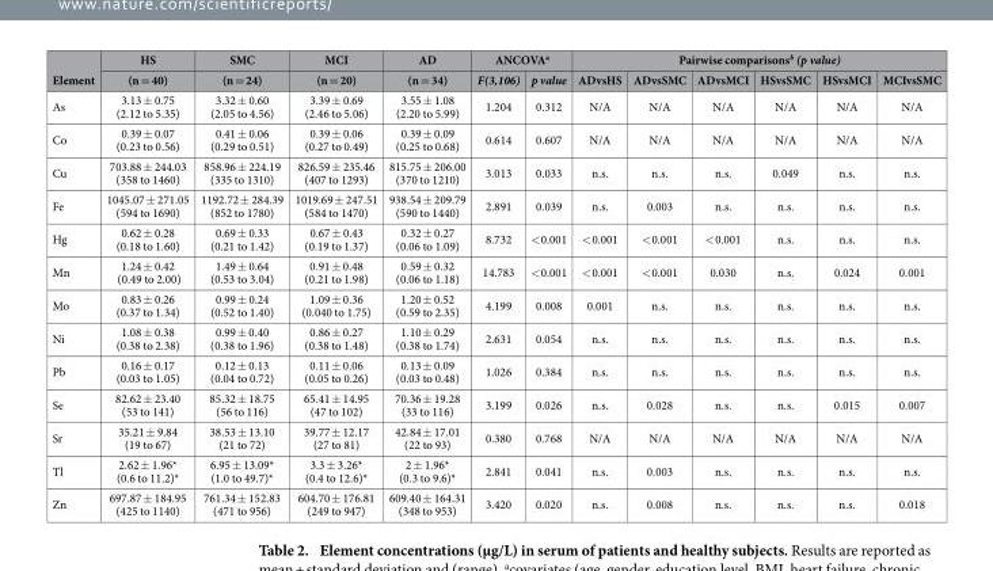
<table><thead><tr><td rowspan="2">Element</td><td rowspan="2">HS (n = 40)</td><td rowspan="2">SMC (n = 24)</td><td rowspan="2">MCI (n = 20)</td><td rowspan="2">AD (n = 34)</td><td colspan="2">ANCOVA<sup>a</sup></td><td colspan="6">Pairwise comparisons<sup>b</sup> (p value)</td></tr><tr><td>F(3,106)</td><td>p value</td><td>ADvsHS</td><td>ADvsSMC</td><td>ADvsMCI</td><td>HSvsSMC</td><td>HSvsMCI</td><td>MCIvsSMC</td></tr></thead><tbody><tr><td>As</td><td>3.13 ± 0.75 (2.12 to 5.35)</td><td>3.32 ± 0.60 (2.05 to 4.56)</td><td>3.39 ± 0.69 (2.46 to 5.06)</td><td>3.55 ± 1.08 (2.20 to 5.99)</td><td>1.204</td><td>0.312</td><td>N/A</td><td>N/A</td><td>N/A</td><td>N/A</td><td>N/A</td><td>N/A</td></tr><tr><td>Co</td><td>0.39 ± 0.07 (0.23 to 0.56)</td><td>0.41 ± 0.06 (0.29 to 0.51)</td><td>0.39 ± 0.06 (0.27 to 0.49)</td><td>0.39 ± 0.09 (0.25 to 0.68)</td><td>0.614</td><td>0.607</td><td>N/A</td><td>N/A</td><td>N/A</td><td>N/A</td><td>N/A</td><td>N/A</td></tr><tr><td>Cu</td><td>703.88 ± 244.03 (358 to 1460)</td><td>858.96 ± 224.19 (335 to 1310)</td><td>826.59 ± 235.46 (407 to 1293)</td><td>815.75 ± 206.00 (370 to 1210)</td><td>3.013</td><td>0.033</td><td>n.s.</td><td>n.s.</td><td>n.s.</td><td>0.049</td><td>n.s.</td><td>n.s.</td></tr><tr><td>Fe</td><td>1045.07 ± 271.05 (594 to 1690)</td><td>1192.72 ± 284.39 (852 to 1780)</td><td>1019.69 ± 247.51 (584 to 1470)</td><td>938.54 ± 209.79 (590 to 1440)</td><td>2.891</td><td>0.039</td><td>n.s.</td><td>0.003</td><td>n.s.</td><td>n.s.</td><td>n.s.</td><td>n.s.</td></tr><tr><td>Hg</td><td>0.62 ± 0.28 (0.18 to 1.60)</td><td>0.69 ± 0.33 (0.21 to 1.42)</td><td>0.67 ± 0.43 (0.19 to 1.37)</td><td>0.32 ± 0.27 (0.06 to 1.09)</td><td>8.732</td><td>&lt; 0.001</td><td>&lt; 0.001</td><td>&lt; 0.001</td><td>&lt; 0.001</td><td>n.s.</td><td>n.s.</td><td>n.s.</td></tr><tr><td>Mn</td><td>1.24 ± 0.42 (0.49 to 2.00)</td><td>1.49 ± 0.64 (0.53 to 3.04)</td><td>0.91 ± 0.48 (0.21 to 1.98)</td><td>0.59 ± 0.32 (0.06 to 1.18)</td><td>14.783</td><td>&lt; 0.001</td><td>&lt; 0.001</td><td>&lt; 0.001</td><td>0.030</td><td>n.s.</td><td>0.024</td><td>0.001</td></tr><tr><td>Mo</td><td>0.83 ± 0.26 (0.37 to 1.34)</td><td>0.99 ± 0.24 (0.52 to 1.40)</td><td>1.09 ± 0.36 (0.040 to 1.75)</td><td>1.20 ± 0.52 (0.59 to 2.35)</td><td>4.199</td><td>0.008</td><td>0.001</td><td>n.s.</td><td>n.s.</td><td>n.s.</td><td>n.s.</td><td>n.s.</td></tr><tr><td>Ni</td><td>1.08 ± 0.38 (0.38 to 2.38)</td><td>0.99 ± 0.40 (0.38 to 1.96)</td><td>0.86 ± 0.27 (0.38 to 1.48)</td><td>1.10 ± 0.29 (0.38 to 1.74)</td><td>2.631</td><td>0.054</td><td>n.s.</td><td>n.s.</td><td>n.s.</td><td>n.s.</td><td>n.s.</td><td>n.s.</td></tr><tr><td>Pb</td><td>0.16 ± 0.17 (0.03 to 1.05)</td><td>0.12 ± 0.13 (0.04 to 0.72)</td><td>0.11 ± 0.06 (0.05 to 0.26)</td><td>0.13 ± 0.09 (0.03 to 0.48)</td><td>1.026</td><td>0.384</td><td>n.s.</td><td>n.s.</td><td>n.s.</td><td>n.s.</td><td>n.s.</td><td>n.s.</td></tr><tr><td>Se</td><td>82.62 ± 23.40 (53 to 141)</td><td>85.32 ± 18.75 (56 to 116)</td><td>65.41 ± 14.95 (47 to 102)</td><td>70.36 ± 19.28 (33 to 116)</td><td>3.199</td><td>0.026</td><td>n.s.</td><td>0.028</td><td>n.s.</td><td>n.s.</td><td>0.015</td><td>0.007</td></tr><tr><td>Sr</td><td>35.21 ± 9.84 (19 to 67)</td><td>38.53 ± 13.10 (21 to 72)</td><td>39.77 ± 12.17 (27 to 81)</td><td>42.84 ± 17.01 (22 to 93)</td><td>0.380</td><td>0.768</td><td>N/A</td><td>N/A</td><td>N/A</td><td>N/A</td><td>N/A</td><td>N/A</td></tr><tr><td>Tl</td><td>2.62 ± 1.96* (0.6 to 11.2)*</td><td>6.95 ± 13.09* (1.0 to 49.7)*</td><td>3.3 ± 3.26* (0.4 to 12.6)*</td><td>2 ± 1.96* (0.3 to 9.6)*</td><td>2.841</td><td>0.041</td><td>n.s.</td><td>0.003</td><td>n.s.</td><td>n.s.</td><td>n.s.</td><td>n.s.</td></tr><tr><td>Zn</td><td>697.87 ± 184.95 (425 to 1140)</td><td>761.34 ± 152.83 (471 to 956)</td><td>604.70 ± 176.81 (249 to 947)</td><td>609.40 ± 164.31 (348 to 953)</td><td>3.420</td><td>0.020</td><td>n.s.</td><td>0.008</td><td>n.s.</td><td>n.s.</td><td>n.s.</td><td>0.018</td></tr></tbody></table>